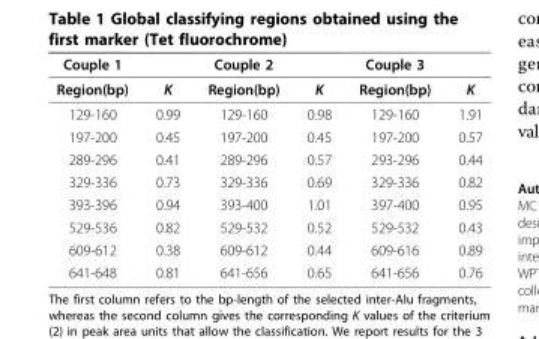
<table><thead><tr><td>Couple 1</td><td></td><td>Couple 2</td><td></td><td>Couple 3</td><td></td></tr></thead><tbody><tr><td>Region(bp)</td><td>K</td><td>Region(bp)</td><td>K</td><td>Region(bp)</td><td>K</td></tr><tr><td>129-160</td><td>0.99</td><td>129-160</td><td>0.98</td><td>129-160</td><td>1.91</td></tr><tr><td>197-200</td><td>0.45</td><td>197-200</td><td>0.45</td><td>197-200</td><td>0.57</td></tr><tr><td>289-296</td><td>0.41</td><td>289-296</td><td>0.57</td><td>293-296</td><td>0.44</td></tr><tr><td>329-336</td><td>0.73</td><td>329-336</td><td>0.69</td><td>329-336</td><td>0.82</td></tr><tr><td>393-396</td><td>0.94</td><td>393-400</td><td>1.01</td><td>397-400</td><td>0.95</td></tr><tr><td>529-536</td><td>0.82</td><td>529-532</td><td>0.52</td><td>529-532</td><td>0.43</td></tr><tr><td>609-612</td><td>0.38</td><td>609-612</td><td>0.44</td><td>609-616</td><td>0.89</td></tr><tr><td>641-648</td><td>0.81</td><td>641-656</td><td>0.65</td><td>641-656</td><td>0.76</td></tr></tbody></table>